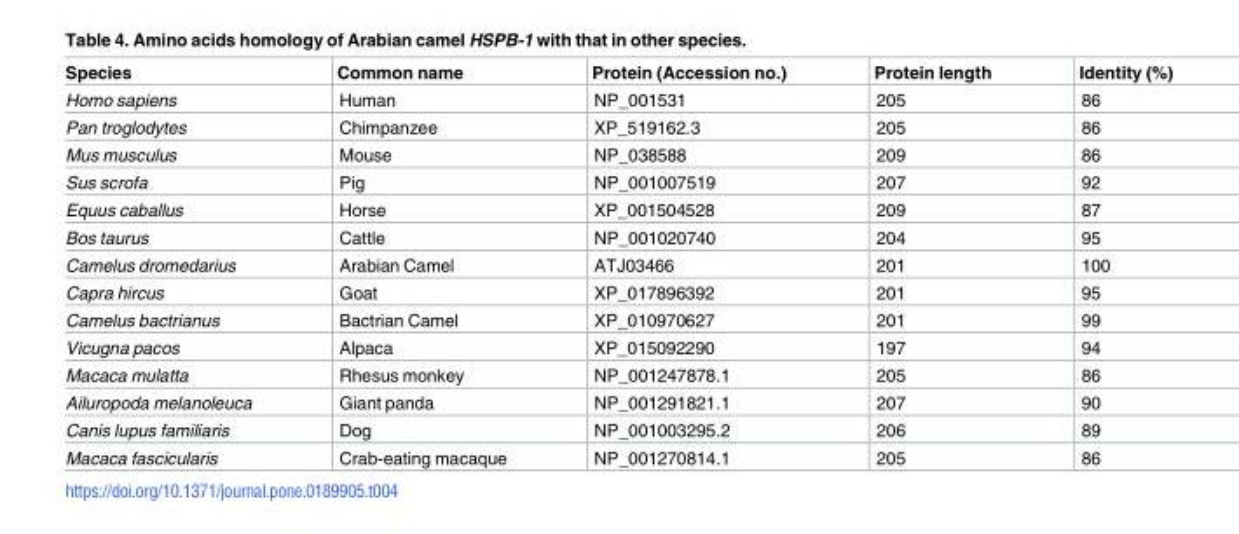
<table><thead><tr><td>Species</td><td>Common name</td><td>Protein (Accession no.)</td><td>Protein length</td><td>Identity (%)</td></tr></thead><tbody><tr><td>Homo sapiens</td><td>Human</td><td>NP_001531</td><td>205</td><td>86</td></tr><tr><td>Pan troglodytes</td><td>Chimpanzee</td><td>XP_519162.3</td><td>205</td><td>86</td></tr><tr><td>Mus musculus</td><td>Mouse</td><td>NP_038588</td><td>209</td><td>86</td></tr><tr><td>Sus scrofa</td><td>Pig</td><td>NP_001007519</td><td>207</td><td>92</td></tr><tr><td>Equus caballus</td><td>Horse</td><td>XP_001504528</td><td>209</td><td>87</td></tr><tr><td>Bos taurus</td><td>Cattle</td><td>NP_001020740</td><td>204</td><td>95</td></tr><tr><td>Camelus dromedarius</td><td>Arabian Camel</td><td>ATJ03466</td><td>201</td><td>100</td></tr><tr><td>Capra hircus</td><td>Goat</td><td>XP_017896392</td><td>201</td><td>95</td></tr><tr><td>Camelus bactrianus</td><td>Bactrian Camel</td><td>XP_010970627</td><td>201</td><td>99</td></tr><tr><td>Vicugna pacos</td><td>Alpaca</td><td>XP_015092290</td><td>197</td><td>94</td></tr><tr><td>Macaca mulatta</td><td>Rhesus monkey</td><td>NP_001247878.1</td><td>205</td><td>86</td></tr><tr><td>Ailuropoda melanoleuca</td><td>Giant panda</td><td>NP_001291821.1</td><td>207</td><td>90</td></tr><tr><td>Canis lupus familiaris</td><td>Dog</td><td>NP_001003295.2</td><td>206</td><td>89</td></tr><tr><td>Macaca fascicularis</td><td>Crab-eating macaque</td><td>NP_001270814.1</td><td>205</td><td>86</td></tr></tbody></table>